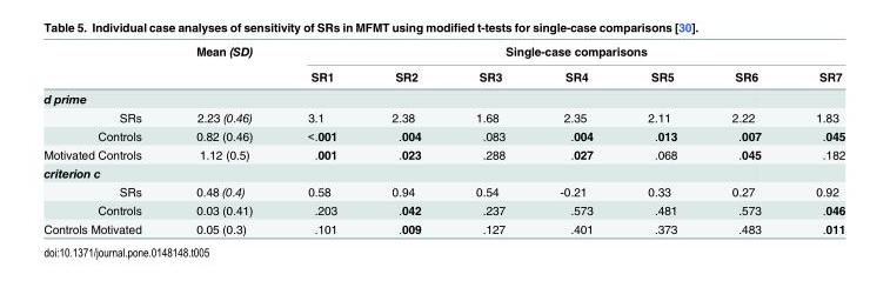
<table><thead><tr><td rowspan="2"></td><td rowspan="2">Mean (SD)</td><td colspan="7">Single-case comparisons</td></tr><tr><td>SR1</td><td>SR2</td><td>SR3</td><td>SR4</td><td>SR5</td><td>SR6</td><td>SR7</td></tr></thead><tbody><tr><td colspan="9">d prime</td></tr><tr><td>SRs</td><td>2.23 (0.46)</td><td>3.1</td><td>2.38</td><td>1.68</td><td>2.35</td><td>2.11</td><td>2.22</td><td>1.83</td></tr><tr><td>Controls</td><td>0.82 (0.46)</td><td>&lt;.001</td><td>.004</td><td>.083</td><td>.004</td><td>.013</td><td>.007</td><td>.045</td></tr><tr><td>Motivated Controls</td><td>1.12 (0.5)</td><td>.001</td><td>.023</td><td>.288</td><td>.027</td><td>.068</td><td>.045</td><td>.182</td></tr><tr><td colspan="9">criterion c</td></tr><tr><td>SRs</td><td>0.48 (0.4)</td><td>0.58</td><td>0.94</td><td>0.54</td><td>-0.21</td><td>0.33</td><td>0.27</td><td>0.92</td></tr><tr><td>Controls</td><td>0.03 (0.41)</td><td>.203</td><td>.042</td><td>.237</td><td>.573</td><td>.481</td><td>.573</td><td>.046</td></tr><tr><td>Controls Motivated</td><td>0.05 (0.3)</td><td>.101</td><td>.009</td><td>.127</td><td>.401</td><td>.373</td><td>.483</td><td>.011</td></tr></tbody></table>